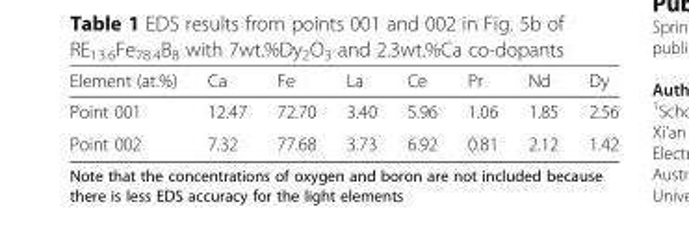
<table><thead><tr><td>Element (at.%)</td><td>Ca</td><td>Fe</td><td>La</td><td>Ce</td><td>Pr</td><td>Nd</td><td>Dy</td></tr></thead><tbody><tr><td>Point 001</td><td>12.47</td><td>72.70</td><td>3.40</td><td>5.96</td><td>1.06</td><td>1.85</td><td>2.56</td></tr><tr><td>Point 002</td><td>7.32</td><td>77.68</td><td>3.73</td><td>6.92</td><td>0.81</td><td>2.12</td><td>1.42</td></tr></tbody></table>